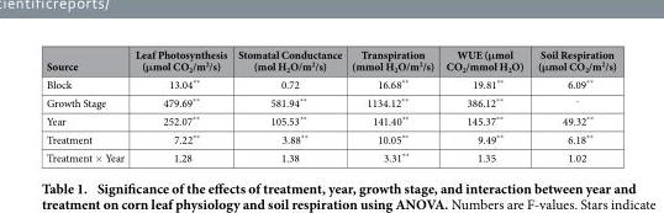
<table><thead><tr><td>Source</td><td>Leaf Photosynthesis (μmol CO<sub>2</sub>/m<sup>2</sup>/s)</td><td>Stomatal Conductance (mol H<sub>2</sub>O/m<sup>2</sup>/s)</td><td>Transpiration (mmol H<sub>2</sub>O/m<sup>2</sup>/s)</td><td>WUE (μmol CO<sub>2</sub>/mmol H<sub>2</sub>O)</td><td>Soil Respiration (μmol CO<sub>2</sub>/m<sup>2</sup>/s)</td></tr></thead><tbody><tr><td>Block</td><td>13.04**</td><td>0.72</td><td>16.68**</td><td>19.81**</td><td>6.09**</td></tr><tr><td>Growth Stage</td><td>479.69**</td><td>581.94**</td><td>1134.12**</td><td>386.12**</td><td><sup>–</sup></td></tr><tr><td>Year</td><td>252.07**</td><td>105.53**</td><td>141.40**</td><td>145.37**</td><td>49.32**</td></tr><tr><td>Treatment</td><td>7.22**</td><td>3.88**</td><td>10.05**</td><td>9.49**</td><td>6.18**</td></tr><tr><td>Treatment × Year</td><td>1.28</td><td>1.38</td><td>3.31**</td><td>1.35</td><td>1.02</td></tr></tbody></table>